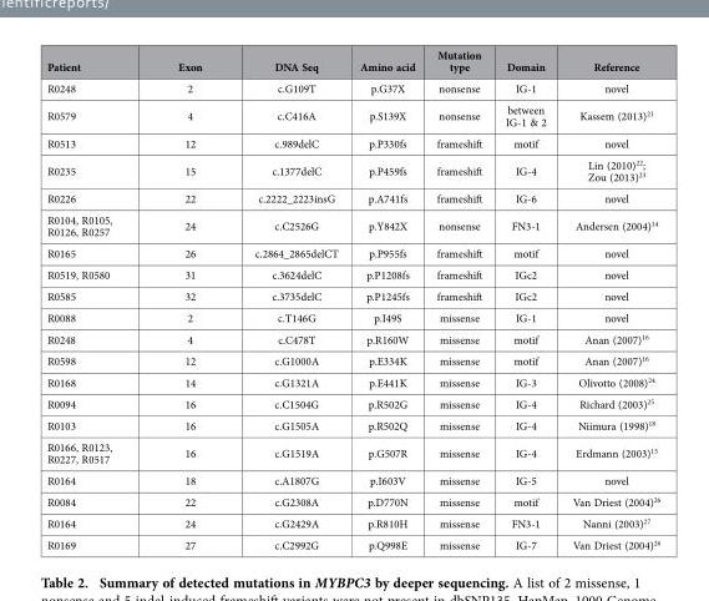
<table><thead><tr><td>Patient</td><td>Exon</td><td>DNA Seq</td><td>Amino acid</td><td>Mutation type</td><td>Domain</td><td>Reference</td></tr></thead><tbody><tr><td>R0248</td><td>2</td><td>c.G109T</td><td>p.G37X</td><td>nonsense</td><td>IG-1</td><td>novel</td></tr><tr><td>R0579</td><td>4</td><td>c.C416A</td><td>p.S139X</td><td>nonsense</td><td>between IG-1 &amp; 2</td><td>Kassem (2013)<sup>21</sup></td></tr><tr><td>R0513</td><td>12</td><td>c.989delC</td><td>p.P330fs</td><td>frameshift</td><td>motif</td><td>novel</td></tr><tr><td>R0235</td><td>15</td><td>c.1377delC</td><td>p.P459fs</td><td>frameshift</td><td>IG-4</td><td>Lin (2010)<sup>22</sup>; Zou (2013)<sup>23</sup></td></tr><tr><td>R0226</td><td>22</td><td>c.2222_2223insG</td><td>p.A741fs</td><td>frameshift</td><td>IG-6</td><td>novel</td></tr><tr><td>R0104, R0105, R0126, R0257</td><td>24</td><td>c.C2526G</td><td>p.Y842X</td><td>nonsense</td><td>FN3-1</td><td>Andersen (2004)<sup>14</sup></td></tr><tr><td>R0165</td><td>26</td><td>c.2864_2865delCT</td><td>p.P955fs</td><td>frameshift</td><td>motif</td><td>novel</td></tr><tr><td>R0519, R0580</td><td>31</td><td>c.3624delC</td><td>p.P1208fs</td><td>frameshift</td><td>IGc2</td><td>novel</td></tr><tr><td>R0585</td><td>32</td><td>c.3735delC</td><td>p.P1245fs</td><td>frameshift</td><td>IGc2</td><td>novel</td></tr><tr><td>R0088</td><td>2</td><td>c.T146G</td><td>p.I49S</td><td>missense</td><td>IG-1</td><td>novel</td></tr><tr><td>R0248</td><td>4</td><td>c.C478T</td><td>p.R160W</td><td>missense</td><td>motif</td><td>Anan (2007)<sup>16</sup></td></tr><tr><td>R0598</td><td>12</td><td>c.G1000A</td><td>p.E334K</td><td>missense</td><td>motif</td><td>Anan (2007)<sup>16</sup></td></tr><tr><td>R0168</td><td>14</td><td>c.G1321A</td><td>p.E441K</td><td>missense</td><td>IG-3</td><td>Olivotto (2008)<sup>24</sup></td></tr><tr><td>R0094</td><td>16</td><td>c.C1504G</td><td>p.R502G</td><td>missense</td><td>IG-4</td><td>Richard (2003)<sup>25</sup></td></tr><tr><td>R0103</td><td>16</td><td>c.G1505A</td><td>p.R502Q</td><td>missense</td><td>IG-4</td><td>Niimura (1998)<sup>18</sup></td></tr><tr><td>R0166, R0123, R0227, R0517</td><td>16</td><td>c.G1519A</td><td>p.G507R</td><td>missense</td><td>IG-4</td><td>Erdmann (2003)<sup>15</sup></td></tr><tr><td>R0164</td><td>18</td><td>c.A1807G</td><td>p.I603V</td><td>missense</td><td>IG-5</td><td>novel</td></tr><tr><td>R0084</td><td>22</td><td>c.G2308A</td><td>p.D770N</td><td>missense</td><td>motif</td><td>Van Driest (2004)<sup>26</sup></td></tr><tr><td>R0164</td><td>24</td><td>c.G2429A</td><td>p.R810H</td><td>missense</td><td>FN3-1</td><td>Nanni (2003)<sup>27</sup></td></tr><tr><td>R0169</td><td>27</td><td>c.C2992G</td><td>p.Q998E</td><td>missense</td><td>IG-7</td><td>Van Driest (2004)<sup>26</sup></td></tr></tbody></table>